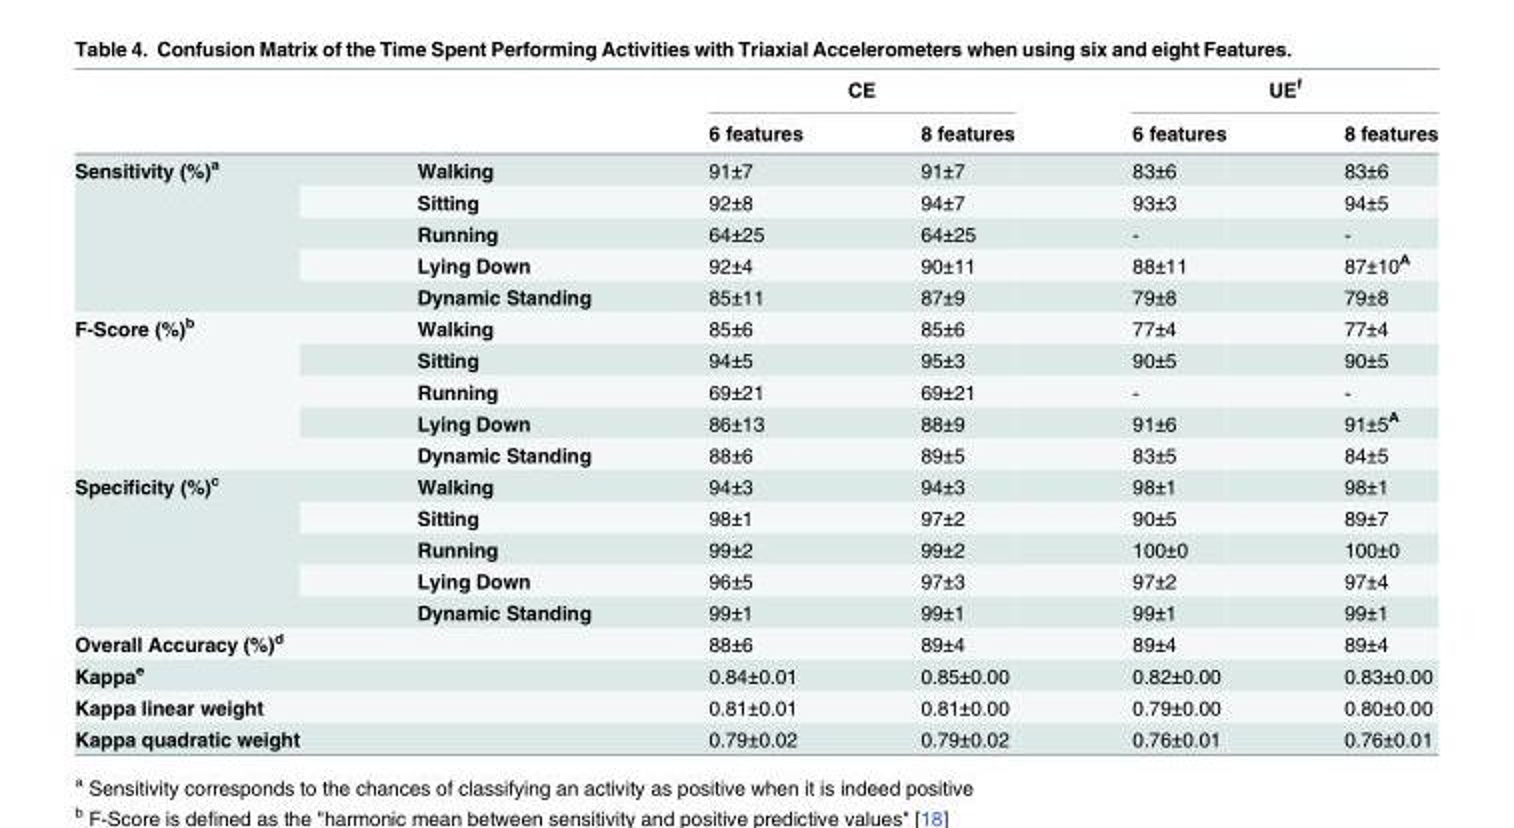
<table><thead><tr><td rowspan="2"></td><td rowspan="2"></td><td colspan="2">CE</td><td colspan="2">UE<sup>f</sup></td></tr><tr><td>6 features</td><td>8 features</td><td>6 features</td><td>8 features</td></tr></thead><tbody><tr><td rowspan="5">Sensitivity (%)<sup>a</sup></td><td>Walking</td><td>91±7</td><td>91±7</td><td>83±6</td><td>83±6</td></tr><tr><td>Sitting</td><td>92±8</td><td>94±7</td><td>93±3</td><td>94±5</td></tr><tr><td>Running</td><td>64±25</td><td>64±25</td><td>-</td><td>-</td></tr><tr><td>Lying Down</td><td>92±4</td><td>90±11</td><td>88±11</td><td>87±10<sup>A</sup></td></tr><tr><td>Dynamic Standing</td><td>85±11</td><td>87±9</td><td>79±8</td><td>79±8</td></tr><tr><td rowspan="5">F-Score (%)<sup>b</sup></td><td>Walking</td><td>85±6</td><td>85±6</td><td>77±4</td><td>77±4</td></tr><tr><td>Sitting</td><td>94±5</td><td>95±3</td><td>90±5</td><td>90±5</td></tr><tr><td>Running</td><td>69±21</td><td>69±21</td><td>-</td><td>-</td></tr><tr><td>Lying Down</td><td>86±13</td><td>88±9</td><td>91±6</td><td>91±5<sup>A</sup></td></tr><tr><td>Dynamic Standing</td><td>88±6</td><td>89±5</td><td>83±5</td><td>84±5</td></tr><tr><td rowspan="5">Specificity (%)<sup>c</sup></td><td>Walking</td><td>94±3</td><td>94±3</td><td>98±1</td><td>98±1</td></tr><tr><td>Sitting</td><td>98±1</td><td>97±2</td><td>90±5</td><td>89±7</td></tr><tr><td>Running</td><td>99±2</td><td>99±2</td><td>100±0</td><td>100±0</td></tr><tr><td>Lying Down</td><td>96±5</td><td>97±3</td><td>97±2</td><td>97±4</td></tr><tr><td>Dynamic Standing</td><td>99±1</td><td>99±1</td><td>99±1</td><td>99±1</td></tr><tr><td>Overall Accuracy (%)<sup>d</sup></td><td></td><td>88±6</td><td>89±4</td><td>89±4</td><td>89±4</td></tr><tr><td>Kappa<sup>e</sup></td><td></td><td>0.84±0.01</td><td>0.85±0.00</td><td>0.82±0.00</td><td>0.83±0.00</td></tr><tr><td>Kappa linear weight</td><td></td><td>0.81±0.01</td><td>0.81±0.00</td><td>0.79±0.00</td><td>0.80±0.00</td></tr><tr><td>Kappa quadratic weight</td><td></td><td>0.79±0.02</td><td>0.79±0.02</td><td>0.76±0.01</td><td>0.76±0.01</td></tr></tbody></table>